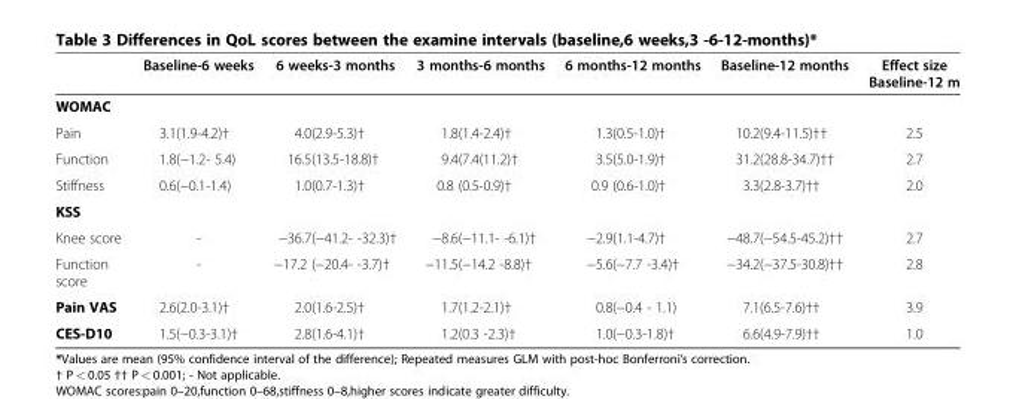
<table><thead><tr><td></td><td>Baseline-6 weeks</td><td>6 weeks-3 months</td><td>3 months-6 months</td><td>6 months-12 months</td><td>Baseline-12 months</td><td>Effect size Baseline-12 m</td></tr></thead><tbody><tr><td colspan="7">WOMAC</td></tr><tr><td>Pain</td><td>3.1(1.9-4.2)†</td><td>4.0(2.9-5.3)†</td><td>1.8(1.4-2.4)†</td><td>1.3(0.5-1.0)†</td><td>10.2(9.4-11.5)††</td><td>2.5</td></tr><tr><td>Function</td><td>1.8(−1.2- 5.4)</td><td>16.5(13.5-18.8)†</td><td>9.4(7.4(11.2)†</td><td>3.5(5.0-1.9)†</td><td>31.2(28.8-34.7)††</td><td>2.7</td></tr><tr><td>Stiffness</td><td>0.6(−0.1-1.4)</td><td>1.0(0.7-1.3)†</td><td>0.8 (0.5-0.9)†</td><td>0.9 (0.6-1.0)†</td><td>3.3(2.8-3.7)††</td><td>2.0</td></tr><tr><td colspan="7">KSS</td></tr><tr><td>Knee score</td><td>-</td><td>−36.7(−41.2- -32.3)†</td><td>−8.6(−11.1- -6.1)†</td><td>−2.9(1.1-4.7)†</td><td>−48.7(−54.5-45.2)††</td><td>2.7</td></tr><tr><td>Function score</td><td>-</td><td>−17.2 (−20.4- -3.7)†</td><td>−11.5(−14.2 -8.8)†</td><td>−5.6(−7.7 -3.4)†</td><td>−34.2(−37.5-30.8)††</td><td>2.8</td></tr><tr><td>Pain VAS</td><td>2.6(2.0-3.1)†</td><td>2.0(1.6-2.5)†</td><td>1.7(1.2-2.1)†</td><td>0.8(−0.4 - 1.1)</td><td>7.1(6.5-7.6)††</td><td>3.9</td></tr><tr><td>CES-D10</td><td>1.5(−0.3-3.1)†</td><td>2.8(1.6-4.1)†</td><td>1.2(0.3 -2.3)†</td><td>1.0(−0.3-1.8)†</td><td>6.6(4.9-7.9)††</td><td>1.0</td></tr></tbody></table>